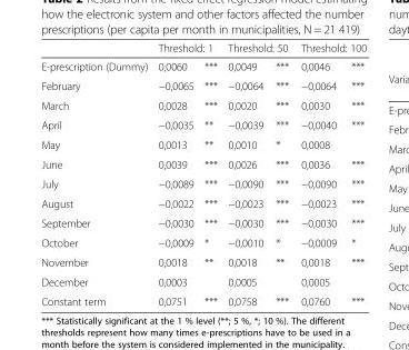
<table><thead><tr><td rowspan="2">E-prescription (Dummy)</td><td colspan="2">Threshold: 1</td><td colspan="2">Threshold: 50</td><td colspan="2">Threshold: 100</td></tr><tr><td>0,0060</td><td>***</td><td>0,0049</td><td>***</td><td>0,0046</td><td>***</td></tr></thead><tbody><tr><td>February</td><td>−0,0065</td><td>***</td><td>−0,0064</td><td>***</td><td>−0,0064</td><td>***</td></tr><tr><td>March</td><td>0,0028</td><td>***</td><td>0,0020</td><td>***</td><td>0,0030</td><td>***</td></tr><tr><td>April</td><td>−0,0035</td><td>**</td><td>−0,0039</td><td>***</td><td>−0,0040</td><td>***</td></tr><tr><td>May</td><td>0,0013</td><td>**</td><td>0,0010</td><td>*</td><td>0,0008</td><td></td></tr><tr><td>June</td><td>0,0039</td><td>***</td><td>0,0026</td><td>***</td><td>0,0036</td><td>***</td></tr><tr><td>July</td><td>−0,0089</td><td>***</td><td>−0,0090</td><td>***</td><td>−0,0090</td><td>***</td></tr><tr><td>August</td><td>−0,0022</td><td>***</td><td>−0,0023</td><td>***</td><td>−0,0023</td><td>***</td></tr><tr><td>September</td><td>−0,0030</td><td>***</td><td>−0,0030</td><td>***</td><td>−0,0030</td><td>***</td></tr><tr><td>October</td><td>−0,0009</td><td>*</td><td>−0,0010</td><td>*</td><td>−0,0009</td><td>*</td></tr><tr><td>November</td><td>0,0018</td><td>**</td><td>0,0018</td><td>**</td><td>0,0018</td><td>***</td></tr><tr><td>December</td><td>0,0003</td><td></td><td>0,0005</td><td></td><td>0,0005</td><td></td></tr><tr><td>Constant term</td><td>0,0751</td><td>***</td><td>0,0758</td><td>***</td><td>0,0760</td><td>***</td></tr></tbody></table>